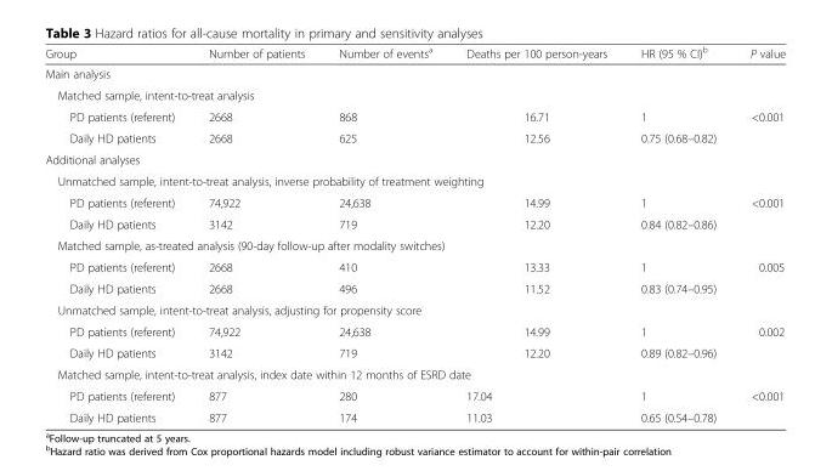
<table><thead><tr><td>Group</td><td>Number of patients</td><td>Number of events<sup>a</sup></td><td>Deaths per 100 person-years</td><td>HR (95 % CI)<sup>b</sup></td><td>P value</td></tr></thead><tbody><tr><td colspan="6">Main analysis</td></tr><tr><td colspan="6">Matched sample, intent-to-treat analysis</td></tr><tr><td>PD patients (referent)</td><td>2668</td><td>868</td><td>16.71</td><td>1</td><td>&lt;0.001</td></tr><tr><td>Daily HD patients</td><td>2668</td><td>625</td><td>12.56</td><td>0.75 (0.68–0.82)</td><td></td></tr><tr><td colspan="6">Additional analyses</td></tr><tr><td colspan="6">Unmatched sample, intent-to-treat analysis, inverse probability of treatment weighting</td></tr><tr><td>PD patients (referent)</td><td>74,922</td><td>24,638</td><td>14.99</td><td>1</td><td>&lt;0.001</td></tr><tr><td>Daily HD patients</td><td>3142</td><td>719</td><td>12.20</td><td>0.84 (0.82–0.86)</td><td></td></tr><tr><td colspan="6">Matched sample, as-treated analysis (90-day follow-up after modality switches)</td></tr><tr><td>PD patients (referent)</td><td>2668</td><td>410</td><td>13.33</td><td>1</td><td>0.005</td></tr><tr><td>Daily HD patients</td><td>2668</td><td>496</td><td>11.52</td><td>0.83 (0.74–0.95)</td><td></td></tr><tr><td colspan="6">Unmatched sample, intent-to-treat analysis, adjusting for propensity score</td></tr><tr><td>PD patients (referent)</td><td>74,922</td><td>24,638</td><td>14.99</td><td>1</td><td>0.002</td></tr><tr><td>Daily HD patients</td><td>3142</td><td>719</td><td>12.20</td><td>0.89 (0.82–0.96)</td><td></td></tr><tr><td colspan="6">Matched sample, intent-to-treat analysis, index date within 12 months of ESRD date</td></tr><tr><td>PD patients (referent)</td><td>877</td><td>280</td><td>17.04</td><td>1</td><td>&lt;0.001</td></tr><tr><td>Daily HD patients</td><td>877</td><td>174</td><td>11.03</td><td>0.65 (0.54–0.78)</td><td></td></tr></tbody></table>